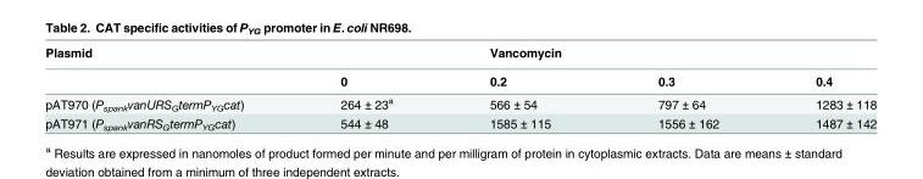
<table><thead><tr><td rowspan="2">Plasmid</td><td rowspan="2">0</td><td rowspan="2">Vancomycin 0.2</td><td rowspan="2">0.3</td><td rowspan="2">0.4</td></tr><tr></tr></thead><tbody><tr><td>pAT970 (P<sub>spank</sub>vanURS<sub>G</sub>termP<sub>YG</sub>cat)</td><td>264 ± 23<sup>a</sup></td><td>566 ± 54</td><td>797 ± 64</td><td>1283 ± 118</td></tr><tr><td>pAT971 (P<sub>spank</sub>vanRS<sub>G</sub>termP<sub>YG</sub>cat)</td><td>544 ± 48</td><td>1585 ± 115</td><td>1556 ± 162</td><td>1487 ± 142</td></tr></tbody></table>